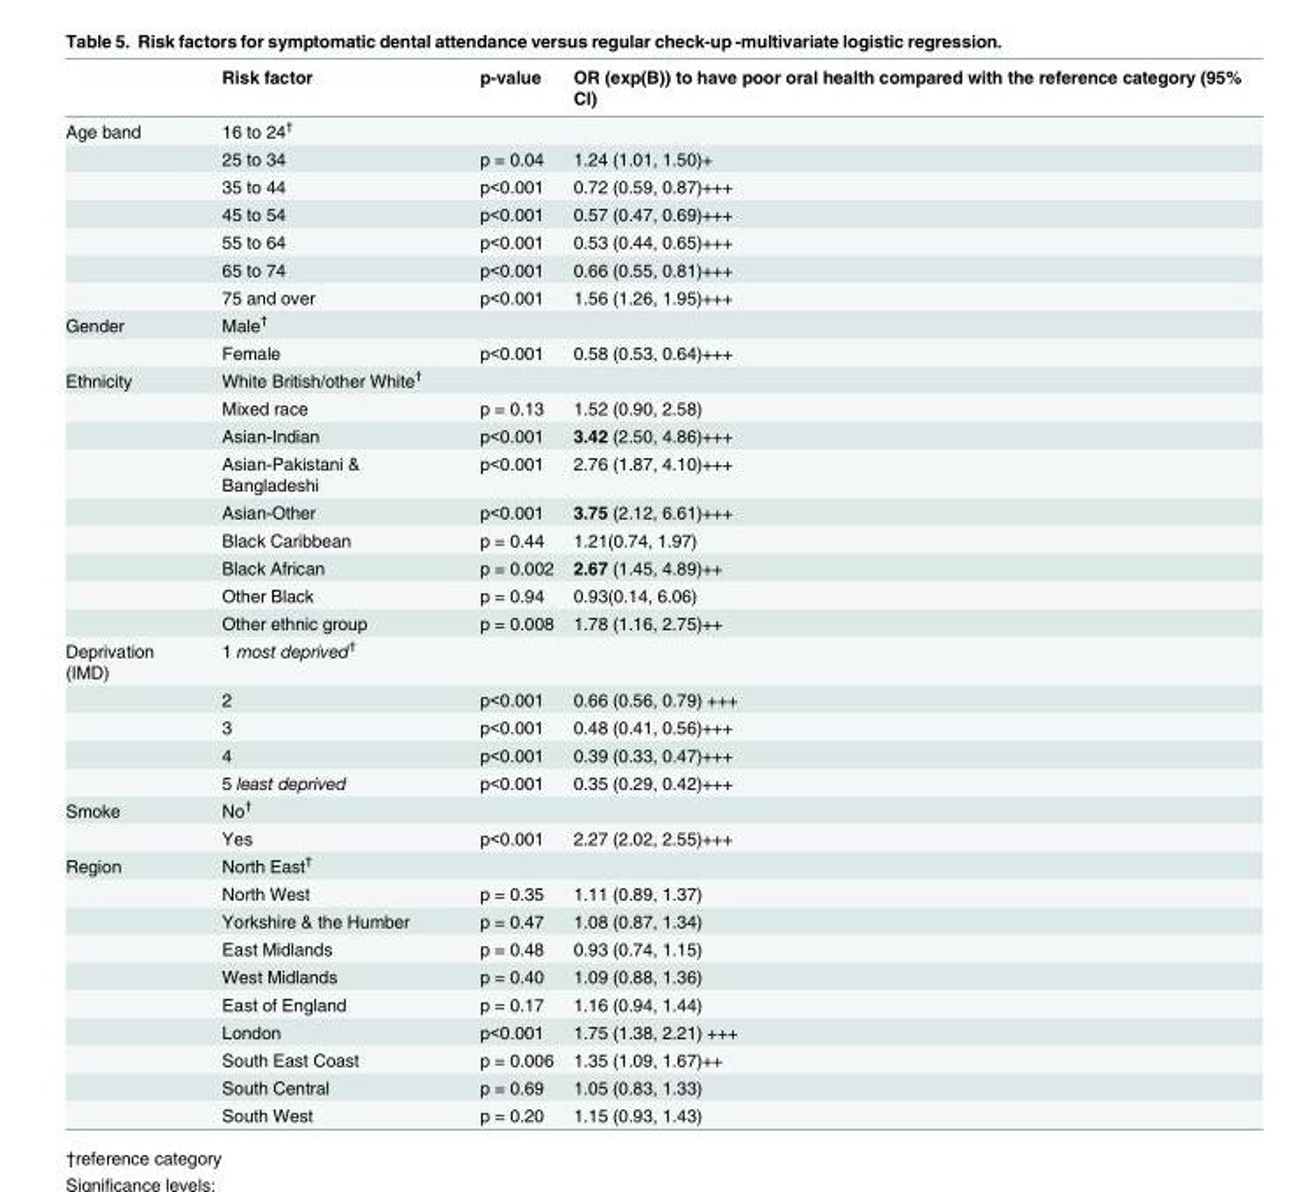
<table><thead><tr><td></td><td>Risk factor</td><td>p-value</td><td>OR (exp(B)) to have poor oral health compared with the reference category (95% CI)</td></tr></thead><tbody><tr><td rowspan="7">Age band</td><td>16 to 24<sup>†</sup></td><td></td><td></td></tr><tr><td>25 to 34</td><td>p = 0.04</td><td>1.24 (1.01, 1.50)+</td></tr><tr><td>35 to 44</td><td>p&lt;0.001</td><td>0.72 (0.59, 0.87)+++</td></tr><tr><td>45 to 54</td><td>p&lt;0.001</td><td>0.57 (0.47, 0.69)+++</td></tr><tr><td>55 to 64</td><td>p&lt;0.001</td><td>0.53 (0.44, 0.65)+++</td></tr><tr><td>65 to 74</td><td>p&lt;0.001</td><td>0.66 (0.55, 0.81)+++</td></tr><tr><td>75 and over</td><td>p&lt;0.001</td><td>1.56 (1.26, 1.95)+++</td></tr><tr><td rowspan="2">Gender</td><td>Male<sup>†</sup></td><td></td><td></td></tr><tr><td>Female</td><td>p&lt;0.001</td><td>0.58 (0.53, 0.64)+++</td></tr><tr><td rowspan="9">Ethnicity</td><td>White British/other White<sup>†</sup></td><td></td><td></td></tr><tr><td>Mixed race</td><td>p = 0.13</td><td>1.52 (0.90, 2.58)</td></tr><tr><td>Asian-Indian</td><td>p&lt;0.001</td><td>3.42 (2.50, 4.86)+++</td></tr><tr><td>Asian-Pakistani &amp; Bangladeshi</td><td>p&lt;0.001</td><td>2.76 (1.87, 4.10)+++</td></tr><tr><td>Asian-Other</td><td>p&lt;0.001</td><td>3.75 (2.12, 6.61)+++</td></tr><tr><td>Black Caribbean</td><td>p = 0.44</td><td>1.21(0.74, 1.97)</td></tr><tr><td>Black African</td><td>p = 0.002</td><td>2.67 (1.45, 4.89)++</td></tr><tr><td>Other Black</td><td>p = 0.94</td><td>0.93(0.14, 6.06)</td></tr><tr><td>Other ethnic group</td><td>p = 0.008</td><td>1.78 (1.16, 2.75)++</td></tr><tr><td rowspan="5">Deprivation (IMD)</td><td>1 most deprived<sup>†</sup></td><td></td><td></td></tr><tr><td>2</td><td>p&lt;0.001</td><td>0.66 (0.56, 0.79) +++</td></tr><tr><td>3</td><td>p&lt;0.001</td><td>0.48 (0.41, 0.56)+++</td></tr><tr><td>4</td><td>p&lt;0.001</td><td>0.39 (0.33, 0.47)+++</td></tr><tr><td>5 least deprived</td><td>p&lt;0.001</td><td>0.35 (0.29, 0.42)+++</td></tr><tr><td rowspan="2">Smoke</td><td>No<sup>†</sup></td><td></td><td></td></tr><tr><td>Yes</td><td>p&lt;0.001</td><td>2.27 (2.02, 2.55)+++</td></tr><tr><td rowspan="10">Region</td><td>North East<sup>†</sup></td><td></td><td></td></tr><tr><td>North West</td><td>p = 0.35</td><td>1.11 (0.89, 1.37)</td></tr><tr><td>Yorkshire &amp; the Humber</td><td>p = 0.47</td><td>1.08 (0.87, 1.34)</td></tr><tr><td>East Midlands</td><td>p = 0.48</td><td>0.93 (0.74, 1.15)</td></tr><tr><td>West Midlands</td><td>p = 0.40</td><td>1.09 (0.88, 1.36)</td></tr><tr><td>East of England</td><td>p = 0.17</td><td>1.16 (0.94, 1.44)</td></tr><tr><td>London</td><td>p&lt;0.001</td><td>1.75 (1.38, 2.21) +++</td></tr><tr><td>South East Coast</td><td>p = 0.006</td><td>1.35 (1.09, 1.67)++</td></tr><tr><td>South Central</td><td>p = 0.69</td><td>1.05 (0.83, 1.33)</td></tr><tr><td>South West</td><td>p = 0.20</td><td>1.15 (0.93, 1.43)</td></tr></tbody></table>